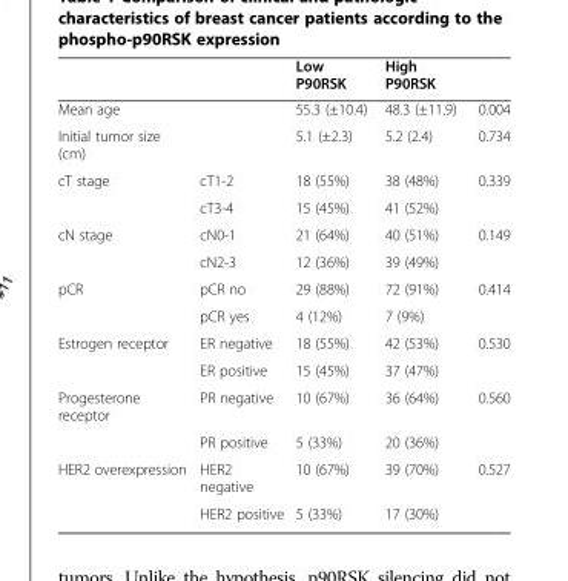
<table><thead><tr><td></td><td></td><td>Low P90RSK</td><td>High P90RSK</td><td></td></tr></thead><tbody><tr><td>Mean age</td><td></td><td>55.3 (±10.4)</td><td>48.3 (±11.9)</td><td>0.004</td></tr><tr><td>Initial tumor size (cm)</td><td></td><td>5.1 (±2.3)</td><td>5.2 (2.4)</td><td>0.734</td></tr><tr><td rowspan="2">cT stage</td><td>cT1-2</td><td>18 (55%)</td><td>38 (48%)</td><td>0.339</td></tr><tr><td>cT3-4</td><td>15 (45%)</td><td>41 (52%)</td><td></td></tr><tr><td rowspan="2">cN stage</td><td>cN0-1</td><td>21 (64%)</td><td>40 (51%)</td><td>0.149</td></tr><tr><td>cN2-3</td><td>12 (36%)</td><td>39 (49%)</td><td></td></tr><tr><td rowspan="2">pCR</td><td>pCR no</td><td>29 (88%)</td><td>72 (91%)</td><td>0.414</td></tr><tr><td>pCR yes</td><td>4 (12%)</td><td>7 (9%)</td><td></td></tr><tr><td rowspan="2">Estrogen receptor</td><td>ER negative</td><td>18 (55%)</td><td>42 (53%)</td><td>0.530</td></tr><tr><td>ER positive</td><td>15 (45%)</td><td>37 (47%)</td><td></td></tr><tr><td rowspan="2">Progesterone receptor</td><td>PR negative</td><td>10 (67%)</td><td>36 (64%)</td><td>0.560</td></tr><tr><td>PR positive</td><td>5 (33%)</td><td>20 (36%)</td><td></td></tr><tr><td rowspan="2">HER2 overexpression</td><td>HER2 negative</td><td>10 (67%)</td><td>39 (70%)</td><td>0.527</td></tr><tr><td>HER2 positive</td><td>5 (33%)</td><td>17 (30%)</td><td></td></tr></tbody></table>